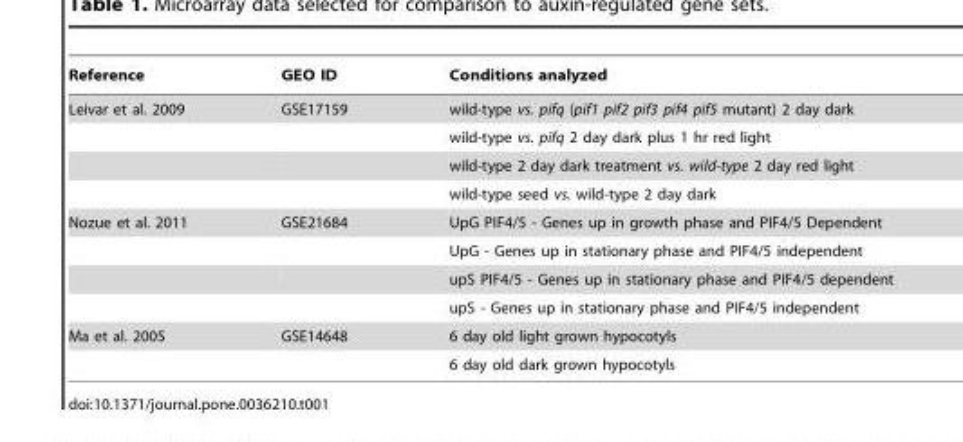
<table><thead><tr><td>Reference</td><td>GEO ID</td><td>Conditions analyzed</td></tr></thead><tbody><tr><td rowspan="4">Leivar et al. 2009</td><td>GSE17159</td><td>wild-type vs. pifq (pif1 pif2 pif3 pif4 pif5 mutant) 2 day dark</td></tr><tr><td></td><td>wild-type vs. pifq 2 day dark plus 1 hr red light</td></tr><tr><td></td><td>wild-type 2 day dark treatment vs. wild-type 2 day red light</td></tr><tr><td></td><td>wild-type seed vs. wild-type 2 day dark</td></tr><tr><td rowspan="4">Nozue et al. 2011</td><td>GSE21684</td><td>UpG PIF4/5 - Genes up in growth phase and PIF4/5 Dependent</td></tr><tr><td></td><td>UpG - Genes up in stationary phase and PIF4/5 independent</td></tr><tr><td></td><td>upS PIF4/5 - Genes up in stationary phase and PIF4/5 dependent</td></tr><tr><td></td><td>upS - Genes up in stationary phase and PIF4/5 independent</td></tr><tr><td rowspan="2">Ma et al. 2005</td><td>GSE14648</td><td>6 day old light grown hypocotyls</td></tr><tr><td></td><td>6 day old dark grown hypocotyls</td></tr></tbody></table>